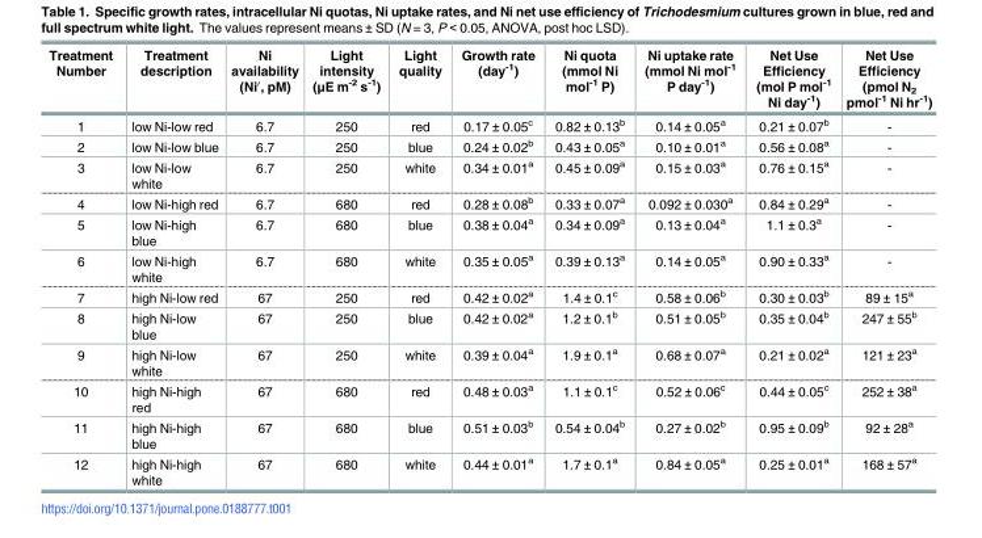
<table><thead><tr><td>Treatment Number</td><td>Treatment description</td><td>Ni availability (Ni′, pM)</td><td>Light intensity (μE m<sup>-2</sup> s<sup>-1</sup>)</td><td>Light quality</td><td>Growth rate (day<sup>-1</sup>)</td><td>Ni quota (mmol Ni mol<sup>-1</sup> P)</td><td>Ni uptake rate (mmol Ni mol<sup>-1</sup> P day<sup>-1</sup>)</td><td>Net Use Efficiency (mol P mol<sup>-1</sup> Ni day<sup>-1</sup>)</td><td>Net Use Efficiency (pmol N<sub>2</sub> pmol<sup>-1</sup> Ni hr<sup>-1</sup>)</td></tr></thead><tbody><tr><td>1</td><td>low Ni-low red</td><td>6.7</td><td>250</td><td>red</td><td>0.17 ± 0.05<sup>c</sup></td><td>0.82 ± 0.13<sup>b</sup></td><td>0.14 ± 0.05<sup>a</sup></td><td>0.21 ± 0.07<sup>b</sup></td><td>-</td></tr><tr><td>2</td><td>low Ni-low blue</td><td>6.7</td><td>250</td><td>blue</td><td>0.24 ± 0.02<sup>b</sup></td><td>0.43 ± 0.05<sup>a</sup></td><td>0.10 ± 0.01<sup>a</sup></td><td>0.56 ± 0.08<sup>a</sup></td><td>-</td></tr><tr><td>3</td><td>low Ni-low white</td><td>6.7</td><td>250</td><td>white</td><td>0.34 ± 0.01<sup>a</sup></td><td>0.45 ± 0.09<sup>a</sup></td><td>0.15 ± 0.03<sup>a</sup></td><td>0.76 ± 0.15<sup>a</sup></td><td>-</td></tr><tr><td>4</td><td>low Ni-high red</td><td>6.7</td><td>680</td><td>red</td><td>0.28 ± 0.08<sup>b</sup></td><td>0.33 ± 0.07<sup>a</sup></td><td>0.092 ± 0.030<sup>a</sup></td><td>0.84 ± 0.29<sup>a</sup></td><td>-</td></tr><tr><td>5</td><td>low Ni-high blue</td><td>6.7</td><td>680</td><td>blue</td><td>0.38 ± 0.04<sup>a</sup></td><td>0.34 ± 0.09<sup>a</sup></td><td>0.13 ± 0.04<sup>a</sup></td><td>1.1 ± 0.3<sup>a</sup></td><td>-</td></tr><tr><td>6</td><td>low Ni-high white</td><td>6.7</td><td>680</td><td>white</td><td>0.35 ± 0.05<sup>a</sup></td><td>0.39 ± 0.13<sup>a</sup></td><td>0.14 ± 0.05<sup>a</sup></td><td>0.90 ± 0.33<sup>a</sup></td><td>-</td></tr><tr><td>7</td><td>high Ni-low red</td><td>67</td><td>250</td><td>red</td><td>0.42 ± 0.02<sup>a</sup></td><td>1.4 ± 0.1<sup>c</sup></td><td>0.58 ± 0.06<sup>b</sup></td><td>0.30 ± 0.03<sup>b</sup></td><td>89 ± 15<sup>a</sup></td></tr><tr><td>8</td><td>high Ni-low blue</td><td>67</td><td>250</td><td>blue</td><td>0.42 ± 0.02<sup>a</sup></td><td>1.2 ± 0.1<sup>b</sup></td><td>0.51 ± 0.05<sup>b</sup></td><td>0.35 ± 0.04<sup>b</sup></td><td>247 ± 55<sup>b</sup></td></tr><tr><td>9</td><td>high Ni-low white</td><td>67</td><td>250</td><td>white</td><td>0.39 ± 0.04<sup>a</sup></td><td>1.9 ± 0.1<sup>a</sup></td><td>0.68 ± 0.07<sup>a</sup></td><td>0.21 ± 0.02<sup>a</sup></td><td>121 ± 23<sup>a</sup></td></tr><tr><td>10</td><td>high Ni-high red</td><td>67</td><td>680</td><td>red</td><td>0.48 ± 0.03<sup>a</sup></td><td>1.1 ± 0.1<sup>c</sup></td><td>0.52 ± 0.06<sup>c</sup></td><td>0.44 ± 0.05<sup>c</sup></td><td>252 ± 38<sup>a</sup></td></tr><tr><td>11</td><td>high Ni-high blue</td><td>67</td><td>680</td><td>blue</td><td>0.51 ± 0.03<sup>b</sup></td><td>0.54 ± 0.04<sup>b</sup></td><td>0.27 ± 0.02<sup>b</sup></td><td>0.95 ± 0.09<sup>b</sup></td><td>92 ± 28<sup>a</sup></td></tr><tr><td>12</td><td>high Ni-high white</td><td>67</td><td>680</td><td>white</td><td>0.44 ± 0.01<sup>a</sup></td><td>1.7 ± 0.1<sup>a</sup></td><td>0.84 ± 0.05<sup>a</sup></td><td>0.25 ± 0.01<sup>a</sup></td><td>168 ± 57<sup>a</sup></td></tr></tbody></table>